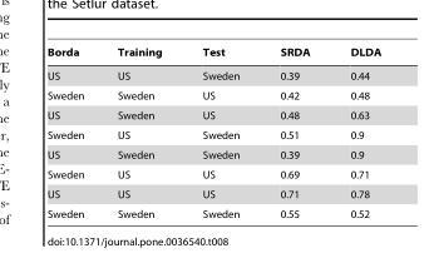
<table><thead><tr><td>Borda</td><td>Training</td><td>Test</td><td>SRDA</td><td>DLDA</td></tr></thead><tbody><tr><td>US</td><td>US</td><td>Sweden</td><td>0.39</td><td>0.44</td></tr><tr><td>Sweden</td><td>Sweden</td><td>US</td><td>0.42</td><td>0.48</td></tr><tr><td>US</td><td>Sweden</td><td>US</td><td>0.48</td><td>0.63</td></tr><tr><td>Sweden</td><td>US</td><td>Sweden</td><td>0.51</td><td>0.9</td></tr><tr><td>US</td><td>Sweden</td><td>Sweden</td><td>0.39</td><td>0.9</td></tr><tr><td>Sweden</td><td>US</td><td>US</td><td>0.69</td><td>0.71</td></tr><tr><td>US</td><td>US</td><td>US</td><td>0.71</td><td>0.78</td></tr><tr><td>Sweden</td><td>Sweden</td><td>Sweden</td><td>0.55</td><td>0.52</td></tr></tbody></table>